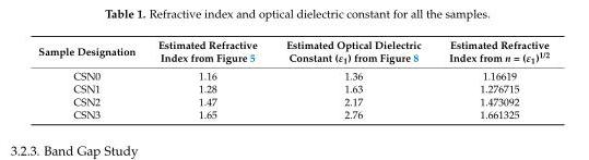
<table><thead><tr><td>Sample Designation</td><td>Estimated Refractive Index from Figure 5</td><td>Estimated Optical Dielectric Constant (ε<sub>1</sub>) from Figure 8</td><td>Estimated Refractive Index from n = (ε<sub>1</sub>)<sup>1/2</sup></td></tr></thead><tbody><tr><td>CSN0</td><td>1.16</td><td>1.36</td><td>1.16619</td></tr><tr><td>CSN1</td><td>1.28</td><td>1.63</td><td>1.276715</td></tr><tr><td>CSN2</td><td>1.47</td><td>2.17</td><td>1.473092</td></tr><tr><td>CSN3</td><td>1.65</td><td>2.76</td><td>1.661325</td></tr></tbody></table>